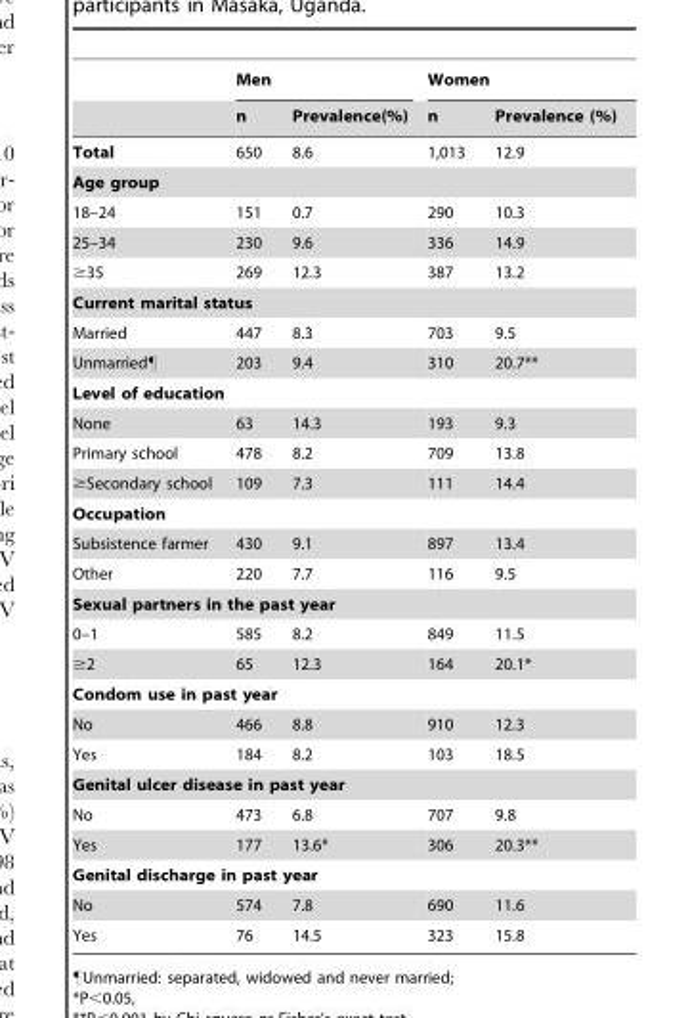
<table><thead><tr><td rowspan="2"></td><td colspan="2">Men</td><td colspan="2">Women</td></tr><tr><td>n</td><td>Prevalence(%)</td><td>n</td><td>Prevalence (%)</td></tr></thead><tbody><tr><td>Total</td><td>650</td><td>8.6</td><td>1,013</td><td>12.9</td></tr><tr><td colspan="5">Age group</td></tr><tr><td>18–24</td><td>151</td><td>0.7</td><td>290</td><td>10.3</td></tr><tr><td>25–34</td><td>230</td><td>9.6</td><td>336</td><td>14.9</td></tr><tr><td>≥35</td><td>269</td><td>12.3</td><td>387</td><td>13.2</td></tr><tr><td colspan="5">Current marital status</td></tr><tr><td>Married</td><td>447</td><td>8.3</td><td>703</td><td>9.5</td></tr><tr><td>Unmarried¶</td><td>203</td><td>9.4</td><td>310</td><td>20.7**</td></tr><tr><td colspan="5">Level of education</td></tr><tr><td>None</td><td>63</td><td>14.3</td><td>193</td><td>9.3</td></tr><tr><td>Primary school</td><td>478</td><td>8.2</td><td>709</td><td>13.8</td></tr><tr><td>≥Secondary school</td><td>109</td><td>7.3</td><td>111</td><td>14.4</td></tr><tr><td colspan="5">Occupation</td></tr><tr><td>Subsistence farmer</td><td>430</td><td>9.1</td><td>897</td><td>13.4</td></tr><tr><td>Other</td><td>220</td><td>7.7</td><td>116</td><td>9.5</td></tr><tr><td colspan="5">Sexual partners in the past year</td></tr><tr><td>0–1</td><td>585</td><td>8.2</td><td>849</td><td>11.5</td></tr><tr><td>≥2</td><td>65</td><td>12.3</td><td>164</td><td>20.1*</td></tr><tr><td colspan="5">Condom use in past year</td></tr><tr><td>No</td><td>466</td><td>8.8</td><td>910</td><td>12.3</td></tr><tr><td>Yes</td><td>184</td><td>8.2</td><td>103</td><td>18.5</td></tr><tr><td colspan="5">Genital ulcer disease in past year</td></tr><tr><td>No</td><td>473</td><td>6.8</td><td>707</td><td>9.8</td></tr><tr><td>Yes</td><td>177</td><td>13.6*</td><td>306</td><td>20.3**</td></tr><tr><td colspan="5">Genital discharge in past year</td></tr><tr><td>No</td><td>574</td><td>7.8</td><td>690</td><td>11.6</td></tr><tr><td>Yes</td><td>76</td><td>14.5</td><td>323</td><td>15.8</td></tr></tbody></table>